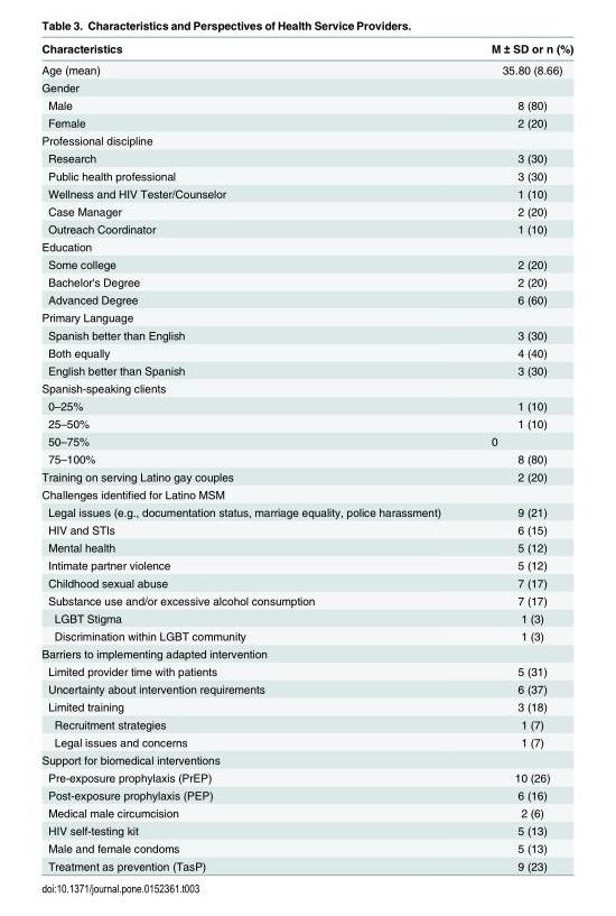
<table><thead><tr><td>Characteristics</td><td>M ± SD or n (%)</td></tr></thead><tbody><tr><td>Age (mean)</td><td>35.80 (8.66)</td></tr><tr><td colspan="2">Gender</td></tr><tr><td>Male</td><td>8 (80)</td></tr><tr><td>Female</td><td>2 (20)</td></tr><tr><td colspan="2">Professional discipline</td></tr><tr><td>Research</td><td>3 (30)</td></tr><tr><td>Public health professional</td><td>3 (30)</td></tr><tr><td>Wellness and HIV Tester/Counselor</td><td>1 (10)</td></tr><tr><td>Case Manager</td><td>2 (20)</td></tr><tr><td>Outreach Coordinator</td><td>1 (10)</td></tr><tr><td colspan="2">Education</td></tr><tr><td>Some college</td><td>2 (20)</td></tr><tr><td>Bachelor&#x27;s Degree</td><td>2 (20)</td></tr><tr><td>Advanced Degree</td><td>6 (60)</td></tr><tr><td colspan="2">Primary Language</td></tr><tr><td>Spanish better than English</td><td>3 (30)</td></tr><tr><td>Both equally</td><td>4 (40)</td></tr><tr><td>English better than Spanish</td><td>3 (30)</td></tr><tr><td colspan="2">Spanish-speaking clients</td></tr><tr><td>0–25%</td><td>1 (10)</td></tr><tr><td>25–50%</td><td>1 (10)</td></tr><tr><td>50–75%</td><td>0</td></tr><tr><td>75–100%</td><td>8 (80)</td></tr><tr><td>Training on serving Latino gay couples</td><td>2 (20)</td></tr><tr><td colspan="2">Challenges identified for Latino MSM</td></tr><tr><td>Legal issues (e.g., documentation status, marriage equality, police harassment)</td><td>9 (21)</td></tr><tr><td>HIV and STIs</td><td>6 (15)</td></tr><tr><td>Mental health</td><td>5 (12)</td></tr><tr><td>Intimate partner violence</td><td>5 (12)</td></tr><tr><td>Childhood sexual abuse</td><td>7 (17)</td></tr><tr><td>Substance use and/or excessive alcohol consumption</td><td>7 (17)</td></tr><tr><td>LGBT Stigma</td><td>1 (3)</td></tr><tr><td>Discrimination within LGBT community</td><td>1 (3)</td></tr><tr><td colspan="2">Barriers to implementing adapted intervention</td></tr><tr><td>Limited provider time with patients</td><td>5 (31)</td></tr><tr><td>Uncertainty about intervention requirements</td><td>6 (37)</td></tr><tr><td>Limited training</td><td>3 (18)</td></tr><tr><td>Recruitment strategies</td><td>1 (7)</td></tr><tr><td>Legal issues and concerns</td><td>1 (7)</td></tr><tr><td colspan="2">Support for biomedical interventions</td></tr><tr><td>Pre-exposure prophylaxis (PrEP)</td><td>10 (26)</td></tr><tr><td>Post-exposure prophylaxis (PEP)</td><td>6 (16)</td></tr><tr><td>Medical male circumcision</td><td>2 (6)</td></tr><tr><td>HIV self-testing kit</td><td>5 (13)</td></tr><tr><td>Male and female condoms</td><td>5 (13)</td></tr><tr><td>Treatment as prevention (TasP)</td><td>9 (23)</td></tr></tbody></table>